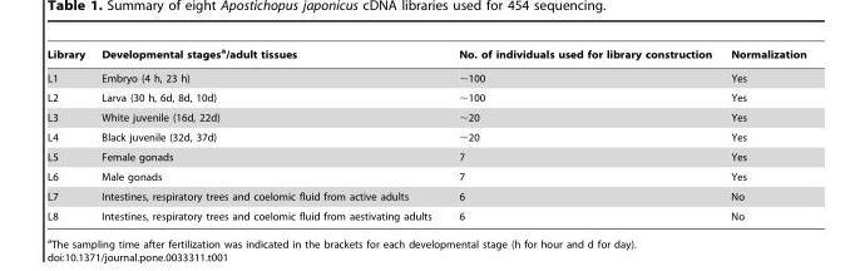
<table><thead><tr><td>Library</td><td>Developmental stages<sup>a</sup>/adult tissues</td><td>No. of individuals used for library construction</td><td>Normalization</td></tr></thead><tbody><tr><td>L1</td><td>Embryo (4 h, 23 h)</td><td>∼100</td><td>Yes</td></tr><tr><td>L2</td><td>Larva (30 h, 6d, 8d, 10d)</td><td>∼100</td><td>Yes</td></tr><tr><td>L3</td><td>White juvenile (16d, 22d)</td><td>∼20</td><td>Yes</td></tr><tr><td>L4</td><td>Black juvenile (32d, 37d)</td><td>∼20</td><td>Yes</td></tr><tr><td>L5</td><td>Female gonads</td><td>7</td><td>Yes</td></tr><tr><td>L6</td><td>Male gonads</td><td>7</td><td>Yes</td></tr><tr><td>L7</td><td>Intestines, respiratory trees and coelomic fluid from active adults</td><td>6</td><td>No</td></tr><tr><td>L8</td><td>Intestines, respiratory trees and coelomic fluid from aestivating adults</td><td>6</td><td>No</td></tr></tbody></table>